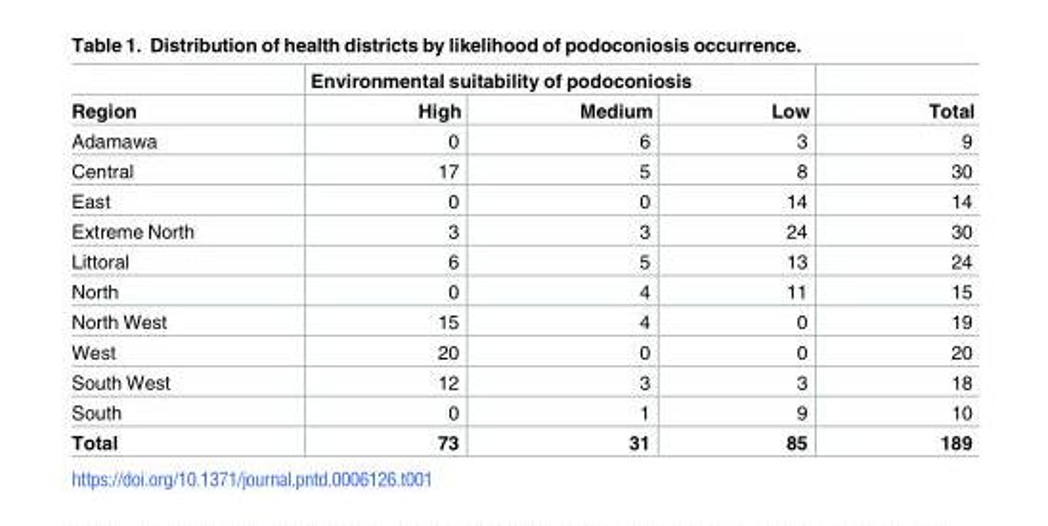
<table><thead><tr><td rowspan="2">Region</td><td colspan="3">Environmental suitability of podoconiosis</td><td rowspan="2">Total</td></tr><tr><td>High</td><td>Medium</td><td>Low</td></tr></thead><tbody><tr><td>Adamawa</td><td>0</td><td>6</td><td>3</td><td>9</td></tr><tr><td>Central</td><td>17</td><td>5</td><td>8</td><td>30</td></tr><tr><td>East</td><td>0</td><td>0</td><td>14</td><td>14</td></tr><tr><td>Extreme North</td><td>3</td><td>3</td><td>24</td><td>30</td></tr><tr><td>Littoral</td><td>6</td><td>5</td><td>13</td><td>24</td></tr><tr><td>North</td><td>0</td><td>4</td><td>11</td><td>15</td></tr><tr><td>North West</td><td>15</td><td>4</td><td>0</td><td>19</td></tr><tr><td>West</td><td>20</td><td>0</td><td>0</td><td>20</td></tr><tr><td>South West</td><td>12</td><td>3</td><td>3</td><td>18</td></tr><tr><td>South</td><td>0</td><td>1</td><td>9</td><td>10</td></tr><tr><td>Total</td><td>73</td><td>31</td><td>85</td><td>189</td></tr></tbody></table>